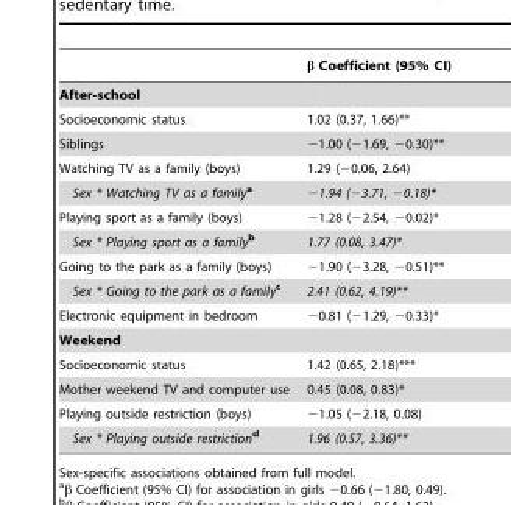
<table><thead><tr><td></td><td>β Coefficient (95% CI)</td></tr></thead><tbody><tr><td colspan="2">After-school</td></tr><tr><td>Socioeconomic status</td><td>1.02 (0.37, 1.66)**</td></tr><tr><td>Siblings</td><td>−1.00 (−1.69, −0.30)**</td></tr><tr><td>Watching TV as a family (boys)</td><td>1.29 (−0.06, 2.64)</td></tr><tr><td>Sex * Watching TV as a familya</td><td>−1.94 (−3.71, −0.18)*</td></tr><tr><td>Playing sport as a family (boys)</td><td>−1.28 (−2.54, −0.02)*</td></tr><tr><td>Sex * Playing sport as a familyb</td><td>1.77 (0.08, 3.47)*</td></tr><tr><td>Going to the park as a family (boys)</td><td>−1.90 (−3.28, −0.51)**</td></tr><tr><td>Sex * Going to the park as a familyc</td><td>2.41 (0.62, 4.19)**</td></tr><tr><td>Electronic equipment in bedroom</td><td>−0.81 (−1.29, −0.33)*</td></tr><tr><td colspan="2">Weekend</td></tr><tr><td>Socioeconomic status</td><td>1.42 (0.65, 2.18)***</td></tr><tr><td>Mother weekend TV and computer use</td><td>0.45 (0.08, 0.83)*</td></tr><tr><td>Playing outside restriction (boys)</td><td>−1.05 (−2.18, 0.08)</td></tr><tr><td>Sex * Playing outside restrictiond</td><td>1.96 (0.57, 3.36)**</td></tr></tbody></table>